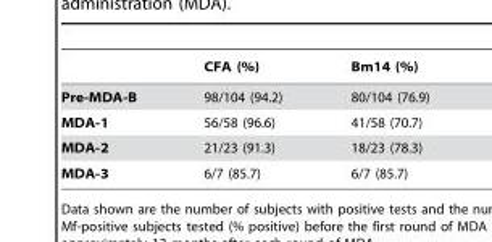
<table><thead><tr><td></td><td>CFA (%)</td><td>Bm14 (%)</td></tr></thead><tbody><tr><td>Pre-MDA-B</td><td>98/104 (94.2)</td><td>80/104 (76.9)</td></tr><tr><td>MDA-1</td><td>56/58 (96.6)</td><td>41/58 (70.7)</td></tr><tr><td>MDA-2</td><td>21/23 (91.3)</td><td>18/23 (78.3)</td></tr><tr><td>MDA-3</td><td>6/7 (85.7)</td><td>6/7 (85.7)</td></tr></tbody></table>